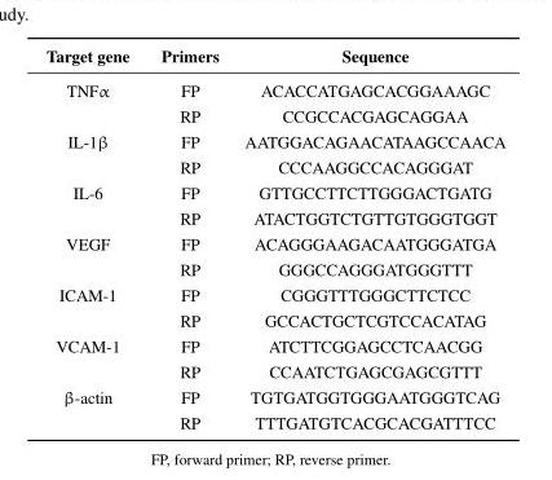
<table><thead><tr><td>Target gene</td><td>Primers</td><td>Sequence</td></tr></thead><tbody><tr><td rowspan="2">TNFα</td><td>FP</td><td>ACACCATGAGCACGGAAAGC</td></tr><tr><td>RP</td><td>CCGCCACGAGCAGGAA</td></tr><tr><td rowspan="2">IL-1β</td><td>FP</td><td>AATGGACAGAACATAAGCCAACA</td></tr><tr><td>RP</td><td>CCCAAGGCCACAGGGAT</td></tr><tr><td rowspan="2">IL-6</td><td>FP</td><td>GTTGCCTTCTTGGGACTGATG</td></tr><tr><td>RP</td><td>ATACTGGTCTGTTGTGGGTGGT</td></tr><tr><td rowspan="2">VEGF</td><td>FP</td><td>ACAGGGAAGACAATGGGATGA</td></tr><tr><td>RP</td><td>GGGCCAGGGATGGGTTT</td></tr><tr><td rowspan="2">ICAM-1</td><td>FP</td><td>CGGGTTTGGGCTTCTCC</td></tr><tr><td>RP</td><td>GCCACTGCTCGTCCACATAG</td></tr><tr><td rowspan="2">VCAM-1</td><td>FP</td><td>ATCTTCGGAGCCTCAACGG</td></tr><tr><td>RP</td><td>CCAATCTGAGCGAGCGTTT</td></tr><tr><td rowspan="2">β-actin</td><td>FP</td><td>TGTGATGGTGGGAATGGGTCAG</td></tr><tr><td>RP</td><td>TTTGATGTCACGCACGATTTCC</td></tr></tbody></table>